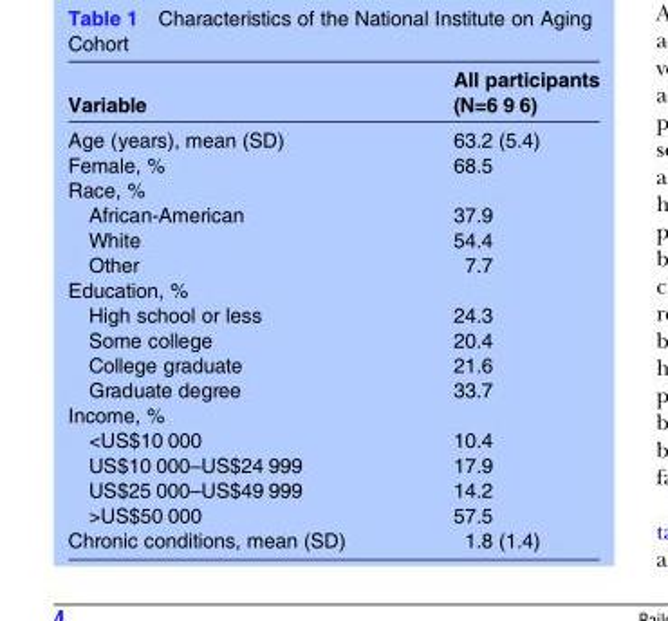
<table><thead><tr><td>Variable</td><td>All participants (N=6 9 6)</td></tr></thead><tbody><tr><td>Age (years), mean (SD)</td><td>63.2 (5.4)</td></tr><tr><td>Female, %</td><td>68.5</td></tr><tr><td colspan="2">Race, %</td></tr><tr><td>African-American</td><td>37.9</td></tr><tr><td>White</td><td>54.4</td></tr><tr><td>Other</td><td>7.7</td></tr><tr><td colspan="2">Education, %</td></tr><tr><td>High school or less</td><td>24.3</td></tr><tr><td>Some college</td><td>20.4</td></tr><tr><td>College graduate</td><td>21.6</td></tr><tr><td>Graduate degree</td><td>33.7</td></tr><tr><td colspan="2">Income, %</td></tr><tr><td>&lt;US$10 000</td><td>10.4</td></tr><tr><td>US$10 000–US$24 999</td><td>17.9</td></tr><tr><td>US$25 000–US$49 999</td><td>14.2</td></tr><tr><td>&gt;US$50 000</td><td>57.5</td></tr><tr><td>Chronic conditions, mean (SD)</td><td>1.8 (1.4)</td></tr></tbody></table>